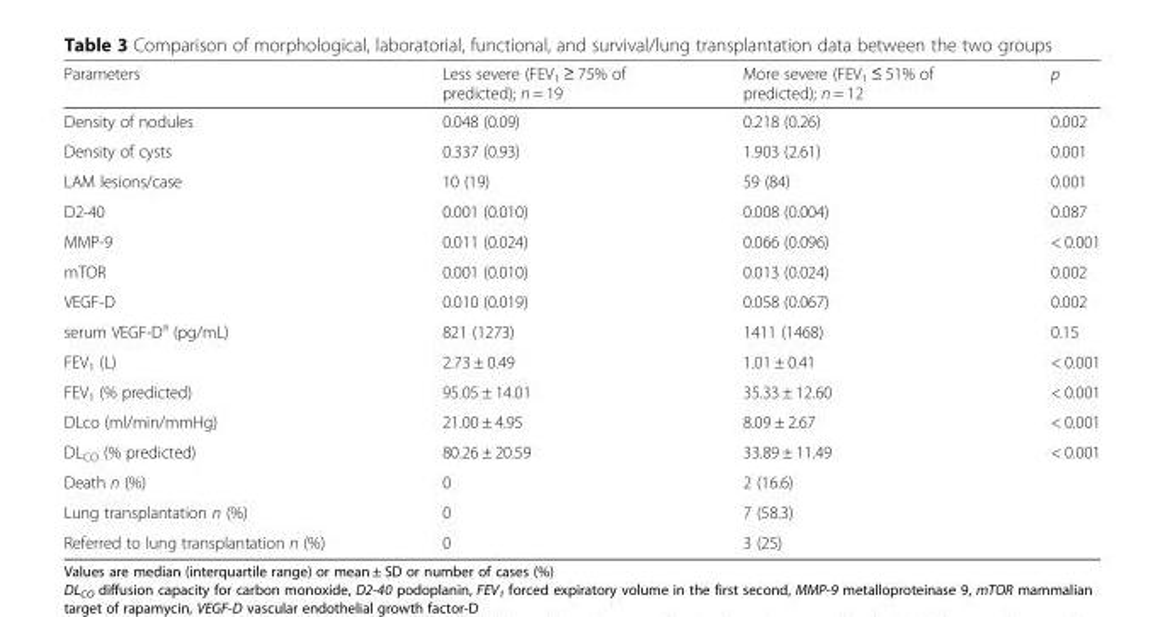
<table><thead><tr><td>Parameters</td><td>Less severe (FEV<sub>1</sub> ≥ 75% of predicted); n = 19</td><td>More severe (FEV<sub>1</sub> ≤ 51% of predicted); n = 12</td><td>p</td></tr></thead><tbody><tr><td>Density of nodules</td><td>0.048 (0.09)</td><td>0.218 (0.26)</td><td>0.002</td></tr><tr><td>Density of cysts</td><td>0.337 (0.93)</td><td>1.903 (2.61)</td><td>0.001</td></tr><tr><td>LAM lesions/case</td><td>10 (19)</td><td>59 (84)</td><td>0.001</td></tr><tr><td>D2-40</td><td>0.001 (0.010)</td><td>0.008 (0.004)</td><td>0.087</td></tr><tr><td>MMP-9</td><td>0.011 (0.024)</td><td>0.066 (0.096)</td><td>&lt; 0.001</td></tr><tr><td>mTOR</td><td>0.001 (0.010)</td><td>0.013 (0.024)</td><td>0.002</td></tr><tr><td>VEGF-D</td><td>0.010 (0.019)</td><td>0.058 (0.067)</td><td>0.002</td></tr><tr><td>serum VEGF-D<sup>a</sup> (pg/mL)</td><td>821 (1273)</td><td>1411 (1468)</td><td>0.15</td></tr><tr><td>FEV<sub>1</sub> (L)</td><td>2.73 ± 0.49</td><td>1.01 ± 0.41</td><td>&lt; 0.001</td></tr><tr><td>FEV<sub>1</sub> (% predicted)</td><td>95.05 ± 14.01</td><td>35.33 ± 12.60</td><td>&lt; 0.001</td></tr><tr><td>DLco (ml/min/mmHg)</td><td>21.00 ± 4.95</td><td>8.09 ± 2.67</td><td>&lt; 0.001</td></tr><tr><td>DL<sub>CO</sub> (% predicted)</td><td>80.26 ± 20.59</td><td>33.89 ± 11.49</td><td>&lt; 0.001</td></tr><tr><td>Death n (%)</td><td>0</td><td>2 (16.6)</td><td></td></tr><tr><td>Lung transplantation n (%)</td><td>0</td><td>7 (58.3)</td><td></td></tr><tr><td>Referred to lung transplantation n (%)</td><td>0</td><td>3 (25)</td><td></td></tr></tbody></table>